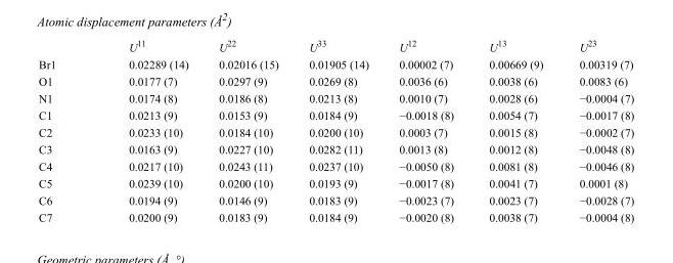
<table><thead><tr><td></td><td>U<sup>11</sup></td><td>U<sup>22</sup></td><td>U<sup>33</sup></td><td>U<sup>12</sup></td><td>U<sup>13</sup></td><td>U<sup>23</sup></td></tr></thead><tbody><tr><td>Br1</td><td>0.02289 (14)</td><td>0.02016 (15)</td><td>0.01905 (14)</td><td>0.00002 (7)</td><td>0.00669 (9)</td><td>0.00319 (7)</td></tr><tr><td>O1</td><td>0.0177 (7)</td><td>0.0297 (9)</td><td>0.0269 (8)</td><td>0.0036 (6)</td><td>0.0038 (6)</td><td>0.0083 (6)</td></tr><tr><td>N1</td><td>0.0174 (8)</td><td>0.0186 (8)</td><td>0.0213 (8)</td><td>0.0010 (7)</td><td>0.0028 (6)</td><td>−0.0004 (7)</td></tr><tr><td>C1</td><td>0.0213 (9)</td><td>0.0153 (9)</td><td>0.0184 (9)</td><td>−0.0018 (8)</td><td>0.0054 (7)</td><td>−0.0017 (8)</td></tr><tr><td>C2</td><td>0.0233 (10)</td><td>0.0184 (10)</td><td>0.0200 (10)</td><td>0.0003 (7)</td><td>0.0015 (8)</td><td>−0.0002 (7)</td></tr><tr><td>C3</td><td>0.0163 (9)</td><td>0.0227 (10)</td><td>0.0282 (11)</td><td>0.0013 (8)</td><td>0.0012 (8)</td><td>−0.0048 (8)</td></tr><tr><td>C4</td><td>0.0217 (10)</td><td>0.0243 (11)</td><td>0.0237 (10)</td><td>−0.0050 (8)</td><td>0.0081 (8)</td><td>−0.0046 (8)</td></tr><tr><td>C5</td><td>0.0239 (10)</td><td>0.0200 (10)</td><td>0.0193 (9)</td><td>−0.0017 (8)</td><td>0.0041 (7)</td><td>0.0001 (8)</td></tr><tr><td>C6</td><td>0.0194 (9)</td><td>0.0146 (9)</td><td>0.0183 (9)</td><td>−0.0023 (7)</td><td>0.0023 (7)</td><td>−0.0028 (7)</td></tr><tr><td>C7</td><td>0.0200 (9)</td><td>0.0183 (9)</td><td>0.0184 (9)</td><td>−0.0020 (8)</td><td>0.0038 (7)</td><td>−0.0004 (8)</td></tr></tbody></table>